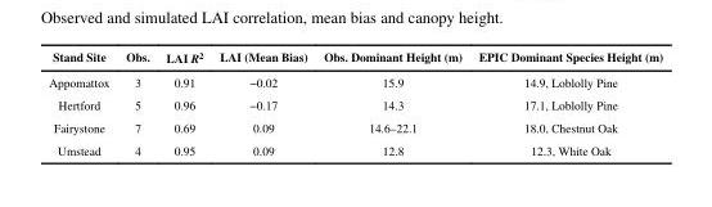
<table><thead><tr><td>Stand Site</td><td>Obs.</td><td>LAI R<sup>2</sup></td><td>LAI (Mean Bias)</td><td>Obs. Dominant Height (m)</td><td>EPIC Dominant Species Height (m)</td></tr></thead><tbody><tr><td>Appomattox</td><td>3</td><td>0.91</td><td>−0.02</td><td>15.9</td><td>14.9, Loblolly Pine</td></tr><tr><td>Hertford</td><td>5</td><td>0.96</td><td>−0.17</td><td>14.3</td><td>17.1, Loblolly Pine</td></tr><tr><td>Fairystone</td><td>7</td><td>0.69</td><td>0.09</td><td>14.6–22.1</td><td>18.0, Chestnut Oak</td></tr><tr><td>Umstead</td><td>4</td><td>0.95</td><td>0.09</td><td>12.8</td><td>12.3, White Oak</td></tr></tbody></table>